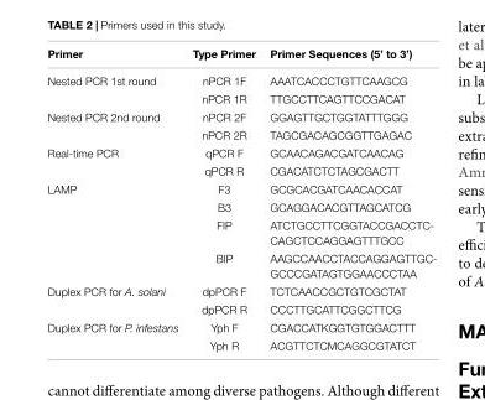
<table><thead><tr><td>Primer</td><td>Type Primer</td><td>Primer Sequences (5’ to 3’)</td></tr></thead><tbody><tr><td rowspan="2">Nested PCR 1st round</td><td>nPCR 1F</td><td>AAATCACCCTGTTCAAGCG</td></tr><tr><td>nPCR 1R</td><td>TTGCCTTCAGTTCCGACAT</td></tr><tr><td rowspan="2">Nested PCR 2nd round</td><td>nPCR 2F</td><td>GGAGTTGCTGGTATTTGGG</td></tr><tr><td>nPCR 2R</td><td>TAGCGACAGCGGTTGAGAC</td></tr><tr><td rowspan="2">Real-time PCR</td><td>qPCR F</td><td>GCAACAGACGATCAACAG</td></tr><tr><td>qPCR R</td><td>CGACATCTCTAGCGACTT</td></tr><tr><td rowspan="4">LAMP</td><td>F3</td><td>GCGCACGATCAACACCAT</td></tr><tr><td>B3</td><td>GCAGGACACGTTAGCATCG</td></tr><tr><td>FIP</td><td>ATCTGCCTTCGGTACCGACCTC- CAGCTCCAGGAGTTTGCC</td></tr><tr><td>BIP</td><td>AAGCCAACCTACCAGGAGTTGC- GCCCGATAGTGGAACCCTAA</td></tr><tr><td rowspan="2">Duplex PCR for A. solani</td><td>dpPCR F</td><td>TCTCAACCGCTGTCGCTAT</td></tr><tr><td>dpPCR R</td><td>CCCTTGCATTCGGCTTCG</td></tr><tr><td rowspan="2">Duplex PCR for P. infestans</td><td>Yph F</td><td>CGACCATKGGTGTGGACTTT</td></tr><tr><td>Yph R</td><td>ACGTTCTCMCAGGCGTATCT</td></tr></tbody></table>